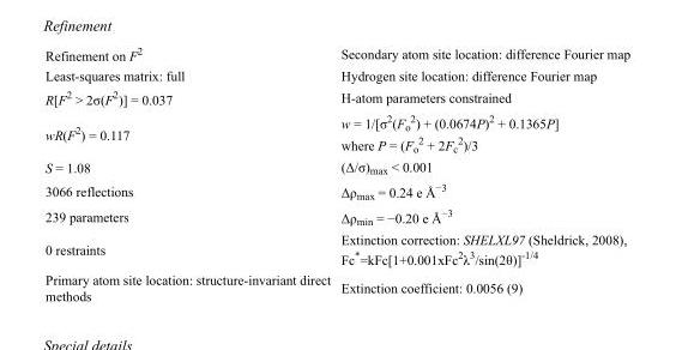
<table><tbody><tr><td>Refinement on F<sup>2</sup></td><td>Secondary atom site location: difference Fourier map</td></tr><tr><td>Least-squares matrix: full</td><td>Hydrogen site location: difference Fourier map</td></tr><tr><td>R[F<sup>2</sup> &gt; 2σ(F<sup>2</sup>)] = 0.037</td><td>H-atom parameters constrained</td></tr><tr><td>wR(F<sup>2</sup>) = 0.117</td><td>w = 1/[σ<sup>2</sup>(F<sub>o</sub> <sup>2</sup>) + (0.0674P)<sup>2</sup> + 0.1365P] where P = (F<sub>o</sub> <sup>2</sup> + 2F<sub>c</sub> <sup>2</sup>)/3</td></tr><tr><td>S = 1.08</td><td>(Δ/σ)<sub>max</sub> &lt; 0.001</td></tr><tr><td>3066 reflections</td><td>Δρ<sub>max</sub> = 0.24 e Å<sup>−3</sup></td></tr><tr><td>239 parameters</td><td>Δρ<sub>min</sub> = −0.20 e Å<sup>−3</sup></td></tr><tr><td>0 restraints</td><td>Extinction correction: SHELXL97 (Sheldrick, 2008), Fc*=kFc[1+0.001xFc<sup>2</sup>λ<sup>3</sup>/sin(2θ)]<sup>-1/4</sup></td></tr><tr><td>Primary atom site location: structure-invariant direct methods</td><td>Extinction coefficient: 0.0056 (9)</td></tr></tbody></table>